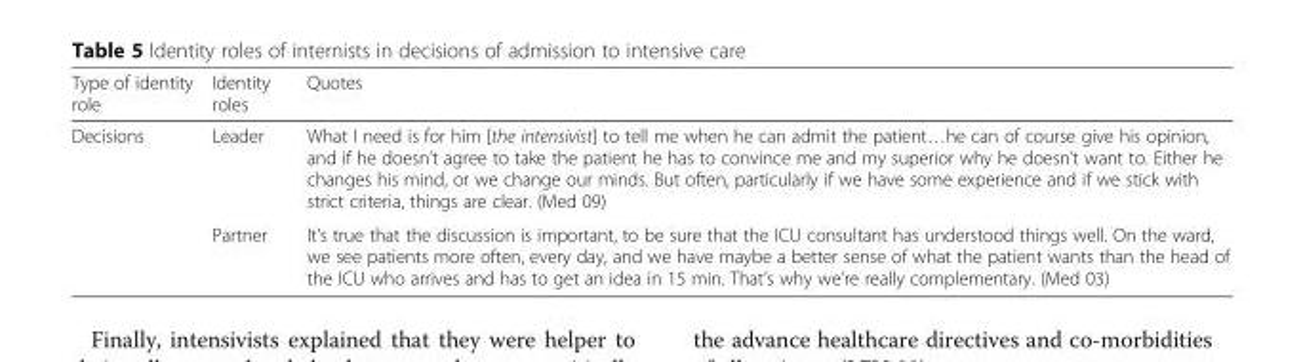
<table><thead><tr><td>Type of identity role</td><td>Identity roles</td><td>Quotes</td></tr></thead><tbody><tr><td rowspan="2">Decisions</td><td>Leader</td><td>What I need is for him [the intensivist] to tell me when he can admit the patient…he can of course give his opinion, and if he doesn’t agree to take the patient he has to convince me and my superior why he doesn’t want to. Either he changes his mind, or we change our minds. But often, particularly if we have some experience and if we stick with strict criteria, things are clear. (Med 09)</td></tr><tr><td>Partner</td><td>It’s true that the discussion is important, to be sure that the ICU consultant has understood things well. On the ward, we see patients more often, every day, and we have maybe a better sense of what the patient wants than the head of the ICU who arrives and has to get an idea in 15 min. That’s why we’re really complementary. (Med 03)</td></tr></tbody></table>